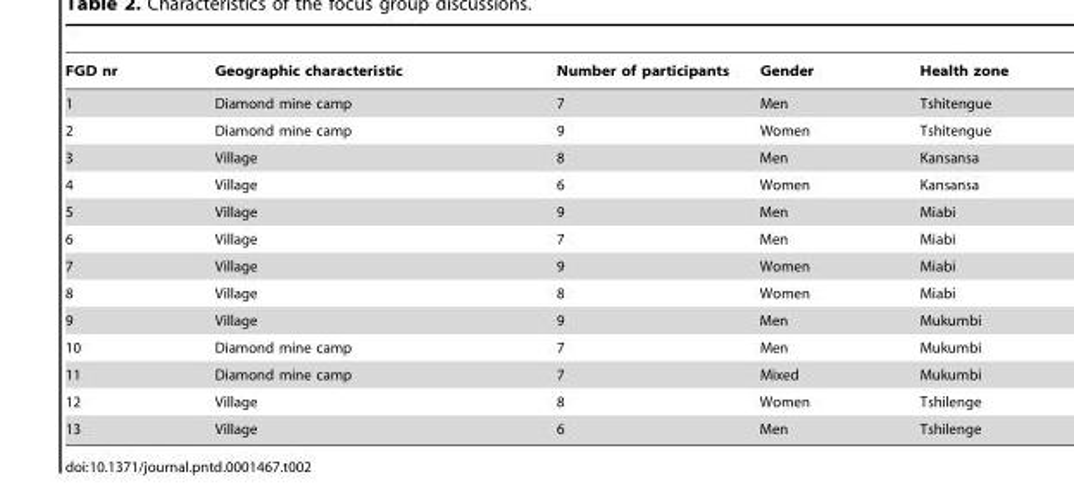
<table><thead><tr><td>FGD nr</td><td>Geographic characteristic</td><td>Number of participants</td><td>Gender</td><td>Health zone</td></tr></thead><tbody><tr><td>1</td><td>Diamond mine camp</td><td>7</td><td>Men</td><td>Tshitengue</td></tr><tr><td>2</td><td>Diamond mine camp</td><td>9</td><td>Women</td><td>Tshitengue</td></tr><tr><td>3</td><td>Village</td><td>8</td><td>Men</td><td>Kansansa</td></tr><tr><td>4</td><td>Village</td><td>6</td><td>Women</td><td>Kansansa</td></tr><tr><td>5</td><td>Village</td><td>9</td><td>Men</td><td>Miabi</td></tr><tr><td>6</td><td>Village</td><td>7</td><td>Men</td><td>Miabi</td></tr><tr><td>7</td><td>Village</td><td>9</td><td>Women</td><td>Miabi</td></tr><tr><td>8</td><td>Village</td><td>8</td><td>Women</td><td>Miabi</td></tr><tr><td>9</td><td>Village</td><td>9</td><td>Men</td><td>Mukumbi</td></tr><tr><td>10</td><td>Diamond mine camp</td><td>7</td><td>Men</td><td>Mukumbi</td></tr><tr><td>11</td><td>Diamond mine camp</td><td>7</td><td>Mixed</td><td>Mukumbi</td></tr><tr><td>12</td><td>Village</td><td>8</td><td>Women</td><td>Tshilenge</td></tr><tr><td>13</td><td>Village</td><td>6</td><td>Men</td><td>Tshilenge</td></tr></tbody></table>